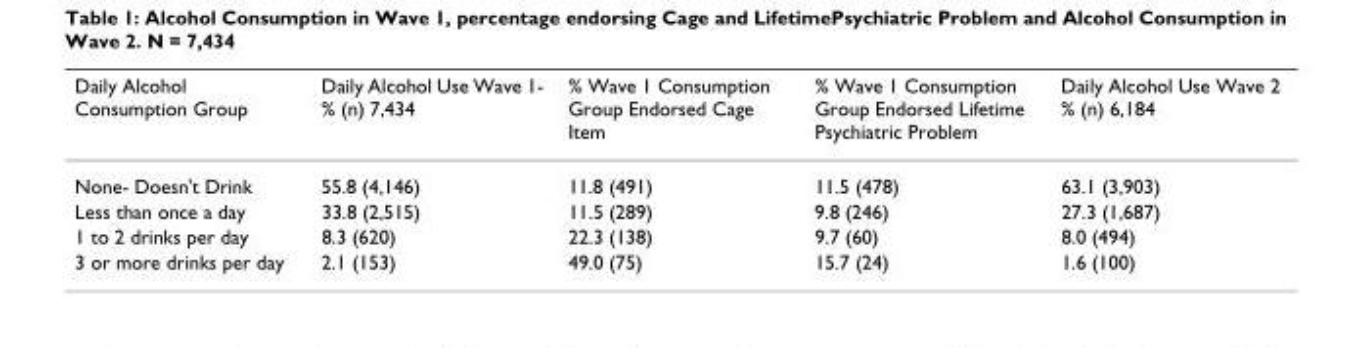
<table><thead><tr><td>Daily Alcohol Consumption Group</td><td>Daily Alcohol Use Wave 1- % (n) 7,434</td><td>% Wave 1 Consumption Group Endorsed Cage Item</td><td>% Wave 1 Consumption Group Endorsed Lifetime Psychiatric Problem</td><td>Daily Alcohol Use Wave 2 % (n) 6,184</td></tr></thead><tbody><tr><td>None- Doesn&#x27;t Drink</td><td>55.8 (4,146)</td><td>11.8 (491)</td><td>11.5 (478)</td><td>63.1 (3,903)</td></tr><tr><td>Less than once a day</td><td>33.8 (2,515)</td><td>11.5 (289)</td><td>9.8 (246)</td><td>27.3 (1,687)</td></tr><tr><td>1 to 2 drinks per day</td><td>8.3 (620)</td><td>22.3 (138)</td><td>9.7 (60)</td><td>8.0 (494)</td></tr><tr><td>3 or more drinks per day</td><td>2.1 (153)</td><td>49.0 (75)</td><td>15.7 (24)</td><td>1.6 (100)</td></tr></tbody></table>